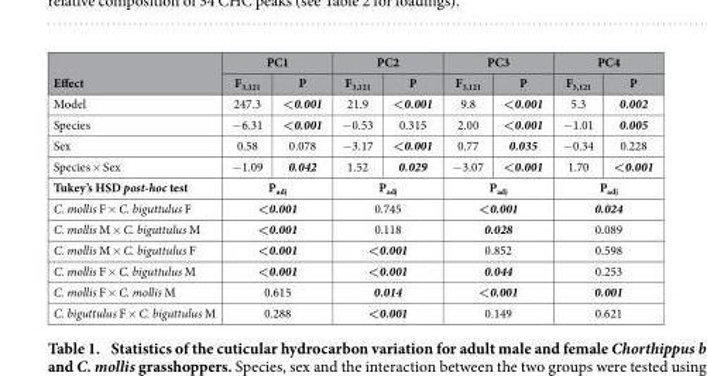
<table><thead><tr><td rowspan="2">Effect</td><td colspan="2">PC1</td><td colspan="2">PC2</td><td colspan="2">PC3</td><td colspan="2">PC4</td></tr><tr><td>F<sub>3,121</sub></td><td>P</td><td>F<sub>3,121</sub></td><td>P</td><td>F<sub>3,121</sub></td><td>P</td><td>F<sub>3,121</sub></td><td>P</td></tr></thead><tbody><tr><td>Model</td><td>247.3</td><td>&lt;0.001</td><td>21.9</td><td>&lt;0.001</td><td>9.8</td><td>&lt;0.001</td><td>5.3</td><td>0.002</td></tr><tr><td>Species</td><td>− 6.31</td><td>&lt;0.001</td><td>− 0.53</td><td>0.315</td><td>2.00</td><td>&lt;0.001</td><td>− 1.01</td><td>0.005</td></tr><tr><td>Sex</td><td>0.58</td><td>0.078</td><td>− 3.17</td><td>&lt;0.001</td><td>0.77</td><td>0.035</td><td>− 0.34</td><td>0.228</td></tr><tr><td>Species × Sex</td><td>− 1.09</td><td>0.042</td><td>1.52</td><td>0.029</td><td>− 3.07</td><td>&lt;0.001</td><td>1.70</td><td>&lt;0.001</td></tr><tr><td>Tukey’s HSD post-hoc test</td><td colspan="2">P<sub>adj</sub></td><td colspan="2">P<sub>adj</sub></td><td colspan="2">P<sub>adj</sub></td><td colspan="2">P<sub>adj</sub></td></tr><tr><td>C. mollis F × C. biguttulus F</td><td colspan="2">&lt;0.001</td><td colspan="2">0.745</td><td colspan="2">&lt;0.001</td><td colspan="2">0.024</td></tr><tr><td>C. mollis M × C. biguttulus M</td><td colspan="2">&lt;0.001</td><td colspan="2">0.118</td><td colspan="2">0.028</td><td colspan="2">0.089</td></tr><tr><td>C. mollis M × C. biguttulus F</td><td colspan="2">&lt;0.001</td><td colspan="2">&lt;0.001</td><td colspan="2">0.852</td><td colspan="2">0.598</td></tr><tr><td>C. mollis F × C. biguttulus M</td><td colspan="2">&lt;0.001</td><td colspan="2">&lt;0.001</td><td colspan="2">0.044</td><td colspan="2">0.253</td></tr><tr><td>C. mollis F × C. mollis M</td><td colspan="2">0.615</td><td colspan="2">0.014</td><td colspan="2">&lt;0.001</td><td colspan="2">0.001</td></tr><tr><td>C. biguttulus F × C. biguttulus M</td><td colspan="2">0.288</td><td colspan="2">&lt;0.001</td><td colspan="2">0.149</td><td colspan="2">0.621</td></tr></tbody></table>